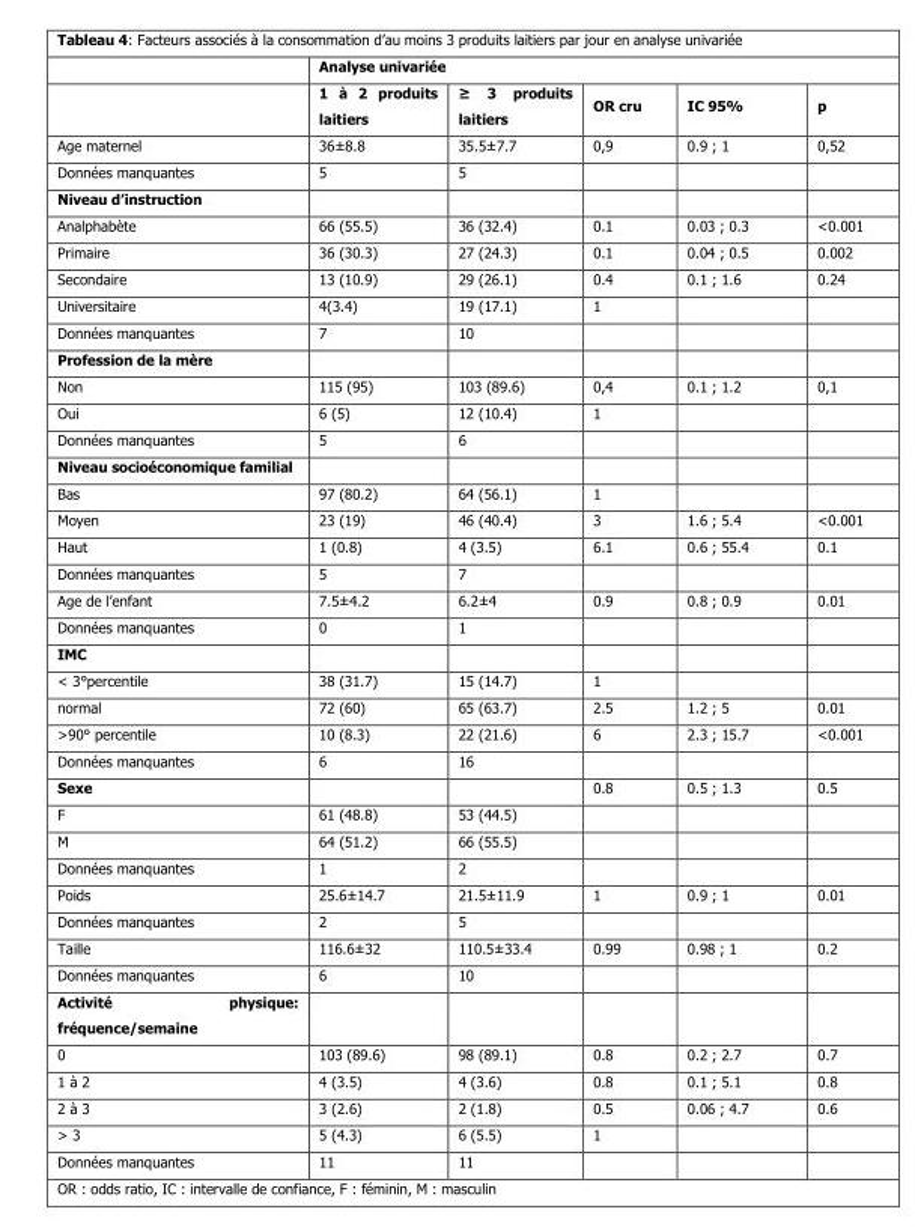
<table><thead><tr><td rowspan="2"></td><td colspan="5">Analyse univariée</td></tr><tr><td>1 à 2 produits laitiers</td><td>≥ 3 produits laitiers</td><td>OR cru</td><td>IC 95%</td><td>p</td></tr></thead><tbody><tr><td>Age maternel</td><td>36±8.8</td><td>35.5±7.7</td><td>0,9</td><td>0.9 ; 1</td><td>0,52</td></tr><tr><td>Données manquantes</td><td>5</td><td>5</td><td></td><td></td><td></td></tr><tr><td colspan="6">Niveau d’instruction</td></tr><tr><td>Analphabète</td><td>66 (55.5)</td><td>36 (32.4)</td><td>0.1</td><td>0.03 ; 0.3</td><td>&lt;0.001</td></tr><tr><td>Primaire</td><td>36 (30.3)</td><td>27 (24.3)</td><td>0.1</td><td>0.04 ; 0.5</td><td>0.002</td></tr><tr><td>Secondaire</td><td>13 (10.9)</td><td>29 (26.1)</td><td>0.4</td><td>0.1 ; 1.6</td><td>0.24</td></tr><tr><td>Universitaire</td><td>4(3.4)</td><td>19 (17.1)</td><td>1</td><td></td><td></td></tr><tr><td>Données manquantes</td><td>7</td><td>10</td><td></td><td></td><td></td></tr><tr><td colspan="6">Profession de la mère</td></tr><tr><td>Non</td><td>115 (95)</td><td>103 (89.6)</td><td>0,4</td><td>0.1 ; 1.2</td><td>0,1</td></tr><tr><td>Oui</td><td>6 (5)</td><td>12 (10.4)</td><td>1</td><td></td><td></td></tr><tr><td>Données manquantes</td><td>5</td><td>6</td><td></td><td></td><td></td></tr><tr><td colspan="6">Niveau socioéconomique familial</td></tr><tr><td>Bas</td><td>97 (80.2)</td><td>64 (56.1)</td><td>1</td><td></td><td></td></tr><tr><td>Moyen</td><td>23 (19)</td><td>46 (40.4)</td><td>3</td><td>1.6 ; 5.4</td><td>&lt;0.001</td></tr><tr><td>Haut</td><td>1 (0.8)</td><td>4 (3.5)</td><td>6.1</td><td>0.6 ; 55.4</td><td>0.1</td></tr><tr><td>Données manquantes</td><td>5</td><td>7</td><td></td><td></td><td></td></tr><tr><td>Age de l’enfant</td><td>7.5±4.2</td><td>6.2±4</td><td>0.9</td><td>0.8 ; 0.9</td><td>0.01</td></tr><tr><td>Données manquantes</td><td>0</td><td>1</td><td></td><td></td><td></td></tr><tr><td colspan="6">IMC</td></tr><tr><td>&lt; 3°percentile</td><td>38 (31.7)</td><td>15 (14.7)</td><td>1</td><td></td><td></td></tr><tr><td>normal</td><td>72 (60)</td><td>65 (63.7)</td><td>2.5</td><td>1.2 ; 5</td><td>0.01</td></tr><tr><td>&gt;90° percentile</td><td>10 (8.3)</td><td>22 (21.6)</td><td>6</td><td>2.3 ; 15.7</td><td>&lt;0.001</td></tr><tr><td>Données manquantes</td><td>6</td><td>16</td><td></td><td></td><td></td></tr><tr><td>Sexe</td><td></td><td></td><td>0.8</td><td>0.5 ; 1.3</td><td>0.5</td></tr><tr><td>F</td><td>61 (48.8)</td><td>53 (44.5)</td><td></td><td></td><td></td></tr><tr><td>M</td><td>64 (51.2)</td><td>66 (55.5)</td><td></td><td></td><td></td></tr><tr><td>Données manquantes</td><td>1</td><td>2</td><td></td><td></td><td></td></tr><tr><td>Poids</td><td>25.6±14.7</td><td>21.5±11.9</td><td>1</td><td>0.9 ; 1</td><td>0.01</td></tr><tr><td>Données manquantes</td><td>2</td><td>5</td><td></td><td></td><td></td></tr><tr><td>Taille</td><td>116.6±32</td><td>110.5±33.4</td><td>0.99</td><td>0.98 ; 1</td><td>0.2</td></tr><tr><td>Données manquantes</td><td>6</td><td>10</td><td></td><td></td><td></td></tr><tr><td colspan="6">Activité physique: fréquence/semaine</td></tr><tr><td>0</td><td>103 (89.6)</td><td>98 (89.1)</td><td>0.8</td><td>0.2 ; 2.7</td><td>0.7</td></tr><tr><td>1 à 2</td><td>4 (3.5)</td><td>4 (3.6)</td><td>0.8</td><td>0.1 ; 5.1</td><td>0.8</td></tr><tr><td>2 à 3</td><td>3 (2.6)</td><td>2 (1.8)</td><td>0.5</td><td>0.06 ; 4.7</td><td>0.6</td></tr><tr><td>&gt; 3</td><td>5 (4.3)</td><td>6 (5.5)</td><td>1</td><td></td><td></td></tr><tr><td>Données manquantes</td><td>11</td><td>11</td><td></td><td></td><td></td></tr></tbody></table>